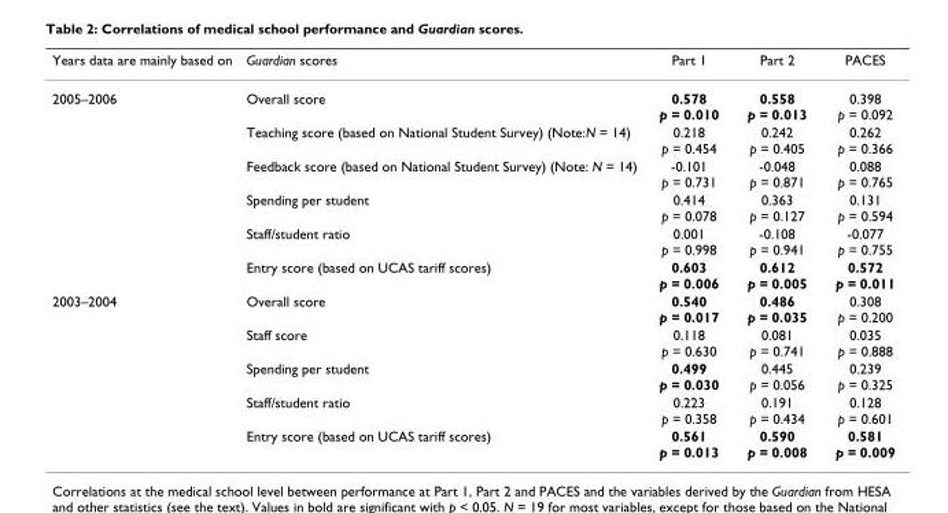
<table><thead><tr><td>Years data are mainly based on</td><td>Guardian scores</td><td>Part 1</td><td>Part 2</td><td>PACES</td></tr></thead><tbody><tr><td rowspan="6">2005–2006</td><td>Overall score</td><td>0.578 p = 0.010</td><td>0.558 p = 0.013</td><td>0.398 p = 0.092</td></tr><tr><td>Teaching score (based on National Student Survey) (Note:N = 14)</td><td>0.218 p = 0.454</td><td>0.242 p = 0.405</td><td>0.262 p = 0.366</td></tr><tr><td>Feedback score (based on National Student Survey) (Note: N = 14)</td><td>-0.101 p = 0.731</td><td>-0.048 p = 0.871</td><td>0.088 p = 0.765</td></tr><tr><td>Spending per student</td><td>0.414 p = 0.078</td><td>0.363 p = 0.127</td><td>0.131 p = 0.594</td></tr><tr><td>Staff/student ratio</td><td>0.001 p = 0.998</td><td>-0.108 p = 0.941</td><td>-0.077 p = 0.755</td></tr><tr><td>Entry score (based on UCAS tariff scores)</td><td>0.603 p = 0.006</td><td>0.612 p = 0.005</td><td>0.572 p = 0.011</td></tr><tr><td rowspan="5">2003–2004</td><td>Overall score</td><td>0.540 p = 0.017</td><td>0.486 p = 0.035</td><td>0.308 p = 0.200</td></tr><tr><td>Staff score</td><td>0.118 p = 0.630</td><td>0.081 p = 0.741</td><td>0.035 p = 0.888</td></tr><tr><td>Spending per student</td><td>0.499 p = 0.030</td><td>0.445 p = 0.056</td><td>0.239 p = 0.325</td></tr><tr><td>Staff/student ratio</td><td>0.223 p = 0.358</td><td>0.191 p = 0.434</td><td>0.128 p = 0.601</td></tr><tr><td>Entry score (based on UCAS tariff scores)</td><td>0.561 p = 0.013</td><td>0.590 p = 0.008</td><td>0.581 p = 0.009</td></tr></tbody></table>